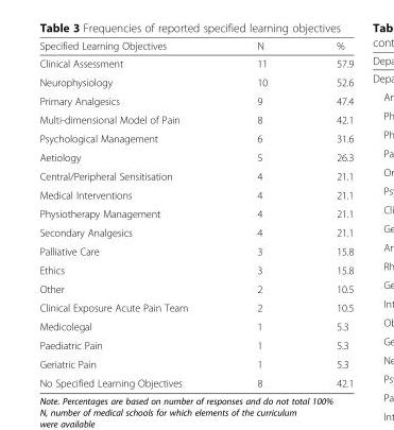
<table><thead><tr><td>Specified Learning Objectives</td><td>N</td><td>%</td></tr></thead><tbody><tr><td>Clinical Assessment</td><td>11</td><td>57.9</td></tr><tr><td>Neurophysiology</td><td>10</td><td>52.6</td></tr><tr><td>Primary Analgesics</td><td>9</td><td>47.4</td></tr><tr><td>Multi-dimensional Model of Pain</td><td>8</td><td>42.1</td></tr><tr><td>Psychological Management</td><td>6</td><td>31.6</td></tr><tr><td>Aetiology</td><td>5</td><td>26.3</td></tr><tr><td>Central/Peripheral Sensitisation</td><td>4</td><td>21.1</td></tr><tr><td>Medical Interventions</td><td>4</td><td>21.1</td></tr><tr><td>Physiotherapy Management</td><td>4</td><td>21.1</td></tr><tr><td>Secondary Analgesics</td><td>4</td><td>21.1</td></tr><tr><td>Palliative Care</td><td>3</td><td>15.8</td></tr><tr><td>Ethics</td><td>3</td><td>15.8</td></tr><tr><td>Other</td><td>2</td><td>10.5</td></tr><tr><td>Clinical Exposure Acute Pain Team</td><td>2</td><td>10.5</td></tr><tr><td>Medicolegal</td><td>1</td><td>5.3</td></tr><tr><td>Paediatric Pain</td><td>1</td><td>5.3</td></tr><tr><td>Geriatric Pain</td><td>1</td><td>5.3</td></tr><tr><td>No Specified Learning Objectives</td><td>8</td><td>42.1</td></tr></tbody></table>